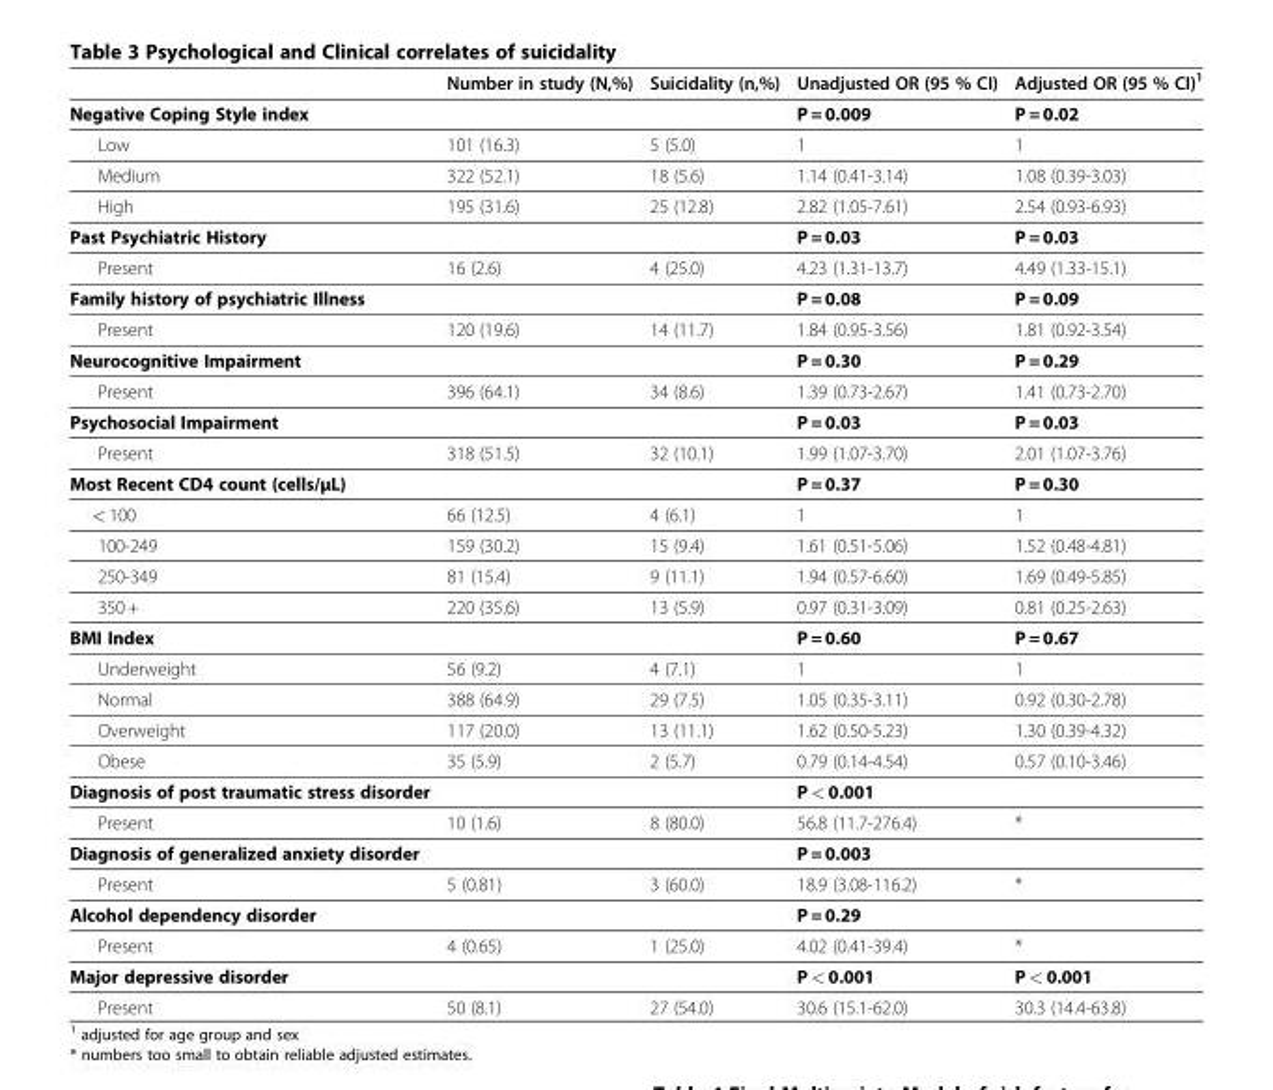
<table><thead><tr><td></td><td>Number in study (N,%)</td><td>Suicidality (n,%)</td><td>Unadjusted OR (95 % CI)</td><td>Adjusted OR (95 % CI)<sup>1</sup></td></tr></thead><tbody><tr><td>Negative Coping Style index</td><td></td><td></td><td>P = 0.009</td><td>P = 0.02</td></tr><tr><td>Low</td><td>101 (16.3)</td><td>5 (5.0)</td><td>1</td><td>1</td></tr><tr><td>Medium</td><td>322 (52.1)</td><td>18 (5.6)</td><td>1.14 (0.41-3.14)</td><td>1.08 (0.39-3.03)</td></tr><tr><td>High</td><td>195 (31.6)</td><td>25 (12.8)</td><td>2.82 (1.05-7.61)</td><td>2.54 (0.93-6.93)</td></tr><tr><td>Past Psychiatric History</td><td></td><td></td><td>P = 0.03</td><td>P = 0.03</td></tr><tr><td>Present</td><td>16 (2.6)</td><td>4 (25.0)</td><td>4.23 (1.31-13.7)</td><td>4.49 (1.33-15.1)</td></tr><tr><td>Family history of psychiatric Illness</td><td></td><td></td><td>P = 0.08</td><td>P = 0.09</td></tr><tr><td>Present</td><td>120 (19.6)</td><td>14 (11.7)</td><td>1.84 (0.95-3.56)</td><td>1.81 (0.92-3.54)</td></tr><tr><td>Neurocognitive Impairment</td><td></td><td></td><td>P = 0.30</td><td>P = 0.29</td></tr><tr><td>Present</td><td>396 (64.1)</td><td>34 (8.6)</td><td>1.39 (0.73-2.67)</td><td>1.41 (0.73-2.70)</td></tr><tr><td>Psychosocial Impairment</td><td></td><td></td><td>P = 0.03</td><td>P = 0.03</td></tr><tr><td>Present</td><td>318 (51.5)</td><td>32 (10.1)</td><td>1.99 (1.07-3.70)</td><td>2.01 (1.07-3.76)</td></tr><tr><td>Most Recent CD4 count (cells/μL)</td><td></td><td></td><td>P = 0.37</td><td>P = 0.30</td></tr><tr><td>&lt; 100</td><td>66 (12.5)</td><td>4 (6.1)</td><td>1</td><td>1</td></tr><tr><td>100-249</td><td>159 (30.2)</td><td>15 (9.4)</td><td>1.61 (0.51-5.06)</td><td>1.52 (0.48-4.81)</td></tr><tr><td>250-349</td><td>81 (15.4)</td><td>9 (11.1)</td><td>1.94 (0.57-6.60)</td><td>1.69 (0.49-5.85)</td></tr><tr><td>350 +</td><td>220 (35.6)</td><td>13 (5.9)</td><td>0.97 (0.31-3.09)</td><td>0.81 (0.25-2.63)</td></tr><tr><td>BMI Index</td><td></td><td></td><td>P = 0.60</td><td>P = 0.67</td></tr><tr><td>Underweight</td><td>56 (9.2)</td><td>4 (7.1)</td><td>1</td><td>1</td></tr><tr><td>Normal</td><td>388 (64.9)</td><td>29 (7.5)</td><td>1.05 (0.35-3.11)</td><td>0.92 (0.30-2.78)</td></tr><tr><td>Overweight</td><td>117 (20.0)</td><td>13 (11.1)</td><td>1.62 (0.50-5.23)</td><td>1.30 (0.39-4.32)</td></tr><tr><td>Obese</td><td>35 (5.9)</td><td>2 (5.7)</td><td>0.79 (0.14-4.54)</td><td>0.57 (0.10-3.46)</td></tr><tr><td>Diagnosis of post traumatic stress disorder</td><td></td><td></td><td>P &lt; 0.001</td><td></td></tr><tr><td>Present</td><td>10 (1.6)</td><td>8 (80.0)</td><td>56.8 (11.7-276.4)</td><td>*</td></tr><tr><td>Diagnosis of generalized anxiety disorder</td><td></td><td></td><td>P = 0.003</td><td></td></tr><tr><td>Present</td><td>5 (0.81)</td><td>3 (60.0)</td><td>18.9 (3.08-116.2)</td><td>*</td></tr><tr><td>Alcohol dependency disorder</td><td></td><td></td><td>P = 0.29</td><td></td></tr><tr><td>Present</td><td>4 (0.65)</td><td>1 (25.0)</td><td>4.02 (0.41-39.4)</td><td>*</td></tr><tr><td>Major depressive disorder</td><td></td><td></td><td>P &lt; 0.001</td><td>P &lt; 0.001</td></tr><tr><td>Present</td><td>50 (8.1)</td><td>27 (54.0)</td><td>30.6 (15.1-62.0)</td><td>30.3 (14.4-63.8)</td></tr></tbody></table>